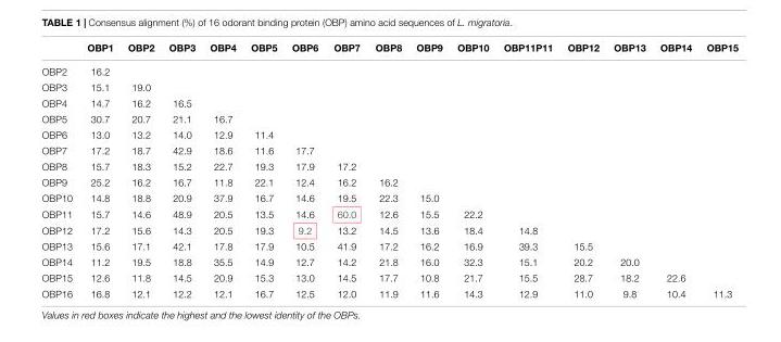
<table><thead><tr><td></td><td>OBP1</td><td>OBP2</td><td>OBP3</td><td>OBP4</td><td>OBP5</td><td>OBP6</td><td>OBP7</td><td>OBP8</td><td>OBP9</td><td>OBP10</td><td>OBP11P11</td><td>OBP12</td><td>OBP13</td><td>OBP14</td><td>OBP15</td></tr></thead><tbody><tr><td>OBP2</td><td>16.2</td><td></td><td></td><td></td><td></td><td></td><td></td><td></td><td></td><td></td><td></td><td></td><td></td><td></td><td></td></tr><tr><td>OBP3</td><td>15.1</td><td>19.0</td><td></td><td></td><td></td><td></td><td></td><td></td><td></td><td></td><td></td><td></td><td></td><td></td><td></td></tr><tr><td>OBP4</td><td>14.7</td><td>16.2</td><td>16.5</td><td></td><td></td><td></td><td></td><td></td><td></td><td></td><td></td><td></td><td></td><td></td><td></td></tr><tr><td>OBP5</td><td>30.7</td><td>20.7</td><td>21.1</td><td>16.7</td><td></td><td></td><td></td><td></td><td></td><td></td><td></td><td></td><td></td><td></td><td></td></tr><tr><td>OBP6</td><td>13.0</td><td>13.2</td><td>14.0</td><td>12.9</td><td>11.4</td><td></td><td></td><td></td><td></td><td></td><td></td><td></td><td></td><td></td><td></td></tr><tr><td>OBP7</td><td>17.2</td><td>18.7</td><td>42.9</td><td>18.6</td><td>11.6</td><td>17.7</td><td></td><td></td><td></td><td></td><td></td><td></td><td></td><td></td><td></td></tr><tr><td>OBP8</td><td>15.7</td><td>18.3</td><td>15.2</td><td>22.7</td><td>19.3</td><td>17.9</td><td>17.2</td><td></td><td></td><td></td><td></td><td></td><td></td><td></td><td></td></tr><tr><td>OBP9</td><td>25.2</td><td>16.2</td><td>16.7</td><td>11.8</td><td>22.1</td><td>12.4</td><td>16.2</td><td>16.2</td><td></td><td></td><td></td><td></td><td></td><td></td><td></td></tr><tr><td>OBP10</td><td>14.8</td><td>18.8</td><td>20.9</td><td>37.9</td><td>16.7</td><td>14.6</td><td>19.5</td><td>22.3</td><td>15.0</td><td></td><td></td><td></td><td></td><td></td><td></td></tr><tr><td>OBP11</td><td>15.7</td><td>14.6</td><td>48.9</td><td>20.5</td><td>13.5</td><td>14.6</td><td>60.0</td><td>12.6</td><td>15.5</td><td>22.2</td><td></td><td></td><td></td><td></td><td></td></tr><tr><td>OBP12</td><td>17.2</td><td>15.6</td><td>14.3</td><td>20.5</td><td>19.3</td><td>9.2</td><td>13.2</td><td>14.5</td><td>13.6</td><td>18.4</td><td>14.8</td><td></td><td></td><td></td><td></td></tr><tr><td>OBP13</td><td>15.6</td><td>17.1</td><td>42.1</td><td>17.8</td><td>17.9</td><td>10.5</td><td>41.9</td><td>17.2</td><td>16.2</td><td>16.9</td><td>39.3</td><td>15.5</td><td></td><td></td><td></td></tr><tr><td>OBP14</td><td>11.2</td><td>19.5</td><td>18.8</td><td>35.5</td><td>14.9</td><td>12.7</td><td>14.2</td><td>21.8</td><td>16.0</td><td>32.3</td><td>15.1</td><td>20.2</td><td>20.0</td><td></td><td></td></tr><tr><td>OBP15</td><td>12.6</td><td>11.8</td><td>14.5</td><td>20.9</td><td>15.3</td><td>13.0</td><td>14.5</td><td>17.7</td><td>10.8</td><td>21.7</td><td>15.5</td><td>28.7</td><td>18.2</td><td>22.6</td><td></td></tr><tr><td>OBP16</td><td>16.8</td><td>12.1</td><td>12.2</td><td>12.1</td><td>16.7</td><td>12.5</td><td>12.0</td><td>11.9</td><td>11.6</td><td>14.3</td><td>12.9</td><td>11.0</td><td>9.8</td><td>10.4</td><td>11.3</td></tr></tbody></table>